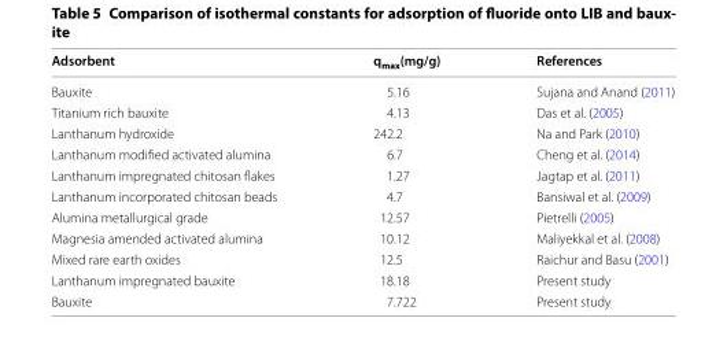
<table><thead><tr><td>Adsorbent</td><td>q<sub>max</sub>(mg/g)</td><td>References</td></tr></thead><tbody><tr><td>Bauxite</td><td>5.16</td><td>Sujana and Anand (2011)</td></tr><tr><td>Titanium rich bauxite</td><td>4.13</td><td>Das et al. (2005)</td></tr><tr><td>Lanthanum hydroxide</td><td>242.2</td><td>Na and Park (2010)</td></tr><tr><td>Lanthanum modified activated alumina</td><td>6.7</td><td>Cheng et al. (2014)</td></tr><tr><td>Lanthanum impregnated chitosan flakes</td><td>1.27</td><td>Jagtap et al. (2011)</td></tr><tr><td>Lanthanum incorporated chitosan beads</td><td>4.7</td><td>Bansiwal et al. (2009)</td></tr><tr><td>Alumina metallurgical grade</td><td>12.57</td><td>Pietrelli (2005)</td></tr><tr><td>Magnesia amended activated alumina</td><td>10.12</td><td>Maliyekkal et al. (2008)</td></tr><tr><td>Mixed rare earth oxides</td><td>12.5</td><td>Raichur and Basu (2001)</td></tr><tr><td>Lanthanum impregnated bauxite</td><td>18.18</td><td>Present study</td></tr><tr><td>Bauxite</td><td>7.722</td><td>Present study</td></tr></tbody></table>